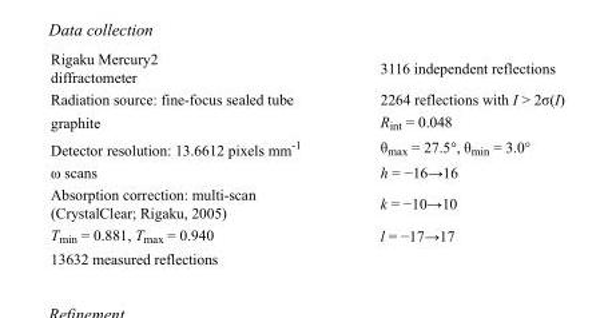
<table><tbody><tr><td>Rigaku Mercury2 diffractometer</td><td>3116 independent reflections</td></tr><tr><td>Radiation source: fine-focus sealed tube</td><td>2264 reflections with I &gt; 2σ(I)</td></tr><tr><td>graphite</td><td>R<sub>int</sub> = 0.048</td></tr><tr><td>Detector resolution: 13.6612 pixels mm<sup>-1</sup></td><td>θ<sub>max</sub> = 27.5°, θ<sub>min</sub> = 3.0°</td></tr><tr><td>ω scans</td><td>h = −16→16</td></tr><tr><td>Absorption correction: multi-scan (CrystalClear; Rigaku, 2005)</td><td>k = −10→10</td></tr><tr><td>T<sub>min</sub> = 0.881, T<sub>max</sub> = 0.940</td><td>l = −17→17</td></tr><tr><td>13632 measured reflections</td><td></td></tr></tbody></table>